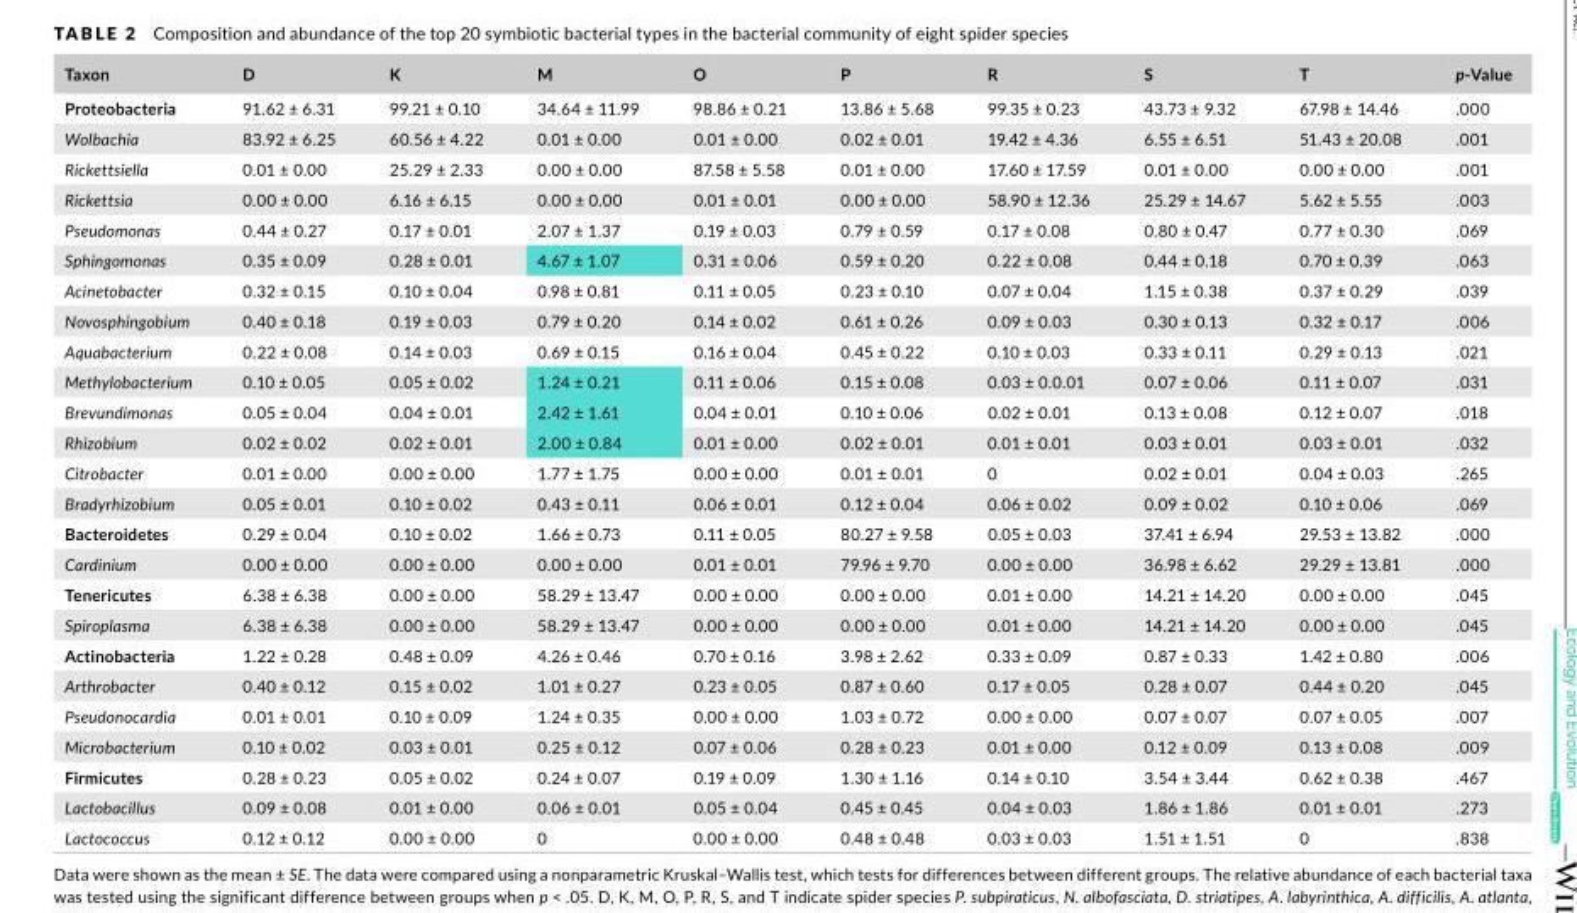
<table><thead><tr><td>Taxon</td><td>D</td><td>K</td><td>M</td><td>O</td><td>P</td><td>R</td><td>S</td><td>T</td><td>p- Value</td></tr></thead><tbody><tr><td>Proteobacteria</td><td>91.62 ± 6.31</td><td>99.21 ± 0.10</td><td>34.64 ± 11.99</td><td>98.86 ± 0.21</td><td>13.86 ± 5.68</td><td>99.35 ± 0.23</td><td>43.73 ± 9.32</td><td>67.98 ± 14.46</td><td>.000</td></tr><tr><td>Wolbachia</td><td>83.92 ± 6.25</td><td>60.56 ± 4.22</td><td>0.01 ± 0.00</td><td>0.01 ± 0.00</td><td>0.02 ± 0.01</td><td>19.42 ± 4.36</td><td>6.55 ± 6.51</td><td>51.43 ± 20.08</td><td>.001</td></tr><tr><td>Rickettsiella</td><td>0.01 ± 0.00</td><td>25.29 ± 2.33</td><td>0.00 ± 0.00</td><td>87.58 ± 5.58</td><td>0.01 ± 0.00</td><td>17.60 ± 17.59</td><td>0.01 ± 0.00</td><td>0.00 ± 0.00</td><td>.001</td></tr><tr><td>Rickettsia</td><td>0.00 ± 0.00</td><td>6.16 ± 6.15</td><td>0.00 ± 0.00</td><td>0.01 ± 0.01</td><td>0.00 ± 0.00</td><td>58.90 ± 12.36</td><td>25.29 ± 14.67</td><td>5.62 ± 5.55</td><td>.003</td></tr><tr><td>Pseudomonas</td><td>0.44 ± 0.27</td><td>0.17 ± 0.01</td><td>2.07 ± 1.37</td><td>0.19 ± 0.03</td><td>0.79 ± 0.59</td><td>0.17 ± 0.08</td><td>0.80 ± 0.47</td><td>0.77 ± 0.30</td><td>.069</td></tr><tr><td>Sphingomonas</td><td>0.35 ± 0.09</td><td>0.28 ± 0.01</td><td>4.67 ± 1.07</td><td>0.31 ± 0.06</td><td>0.59 ± 0.20</td><td>0.22 ± 0.08</td><td>0.44 ± 0.18</td><td>0.70 ± 0.39</td><td>.063</td></tr><tr><td>Acinetobacter</td><td>0.32 ± 0.15</td><td>0.10 ± 0.04</td><td>0.98 ± 0.81</td><td>0.11 ± 0.05</td><td>0.23 ± 0.10</td><td>0.07 ± 0.04</td><td>1.15 ± 0.38</td><td>0.37 ± 0.29</td><td>.039</td></tr><tr><td>Novosphingobium</td><td>0.40 ± 0.18</td><td>0.19 ± 0.03</td><td>0.79 ± 0.20</td><td>0.14 ± 0.02</td><td>0.61 ± 0.26</td><td>0.09 ± 0.03</td><td>0.30 ± 0.13</td><td>0.32 ± 0.17</td><td>.006</td></tr><tr><td>Aquabacterium</td><td>0.22 ± 0.08</td><td>0.14 ± 0.03</td><td>0.69 ± 0.15</td><td>0.16 ± 0.04</td><td>0.45 ± 0.22</td><td>0.10 ± 0.03</td><td>0.33 ± 0.11</td><td>0.29 ± 0.13</td><td>.021</td></tr><tr><td>Methylobacterium</td><td>0.10 ± 0.05</td><td>0.05 ± 0.02</td><td>1.24 ± 0.21</td><td>0.11 ± 0.06</td><td>0.15 ± 0.08</td><td>0.03 ± 0.0.01</td><td>0.07 ± 0.06</td><td>0.11 ± 0.07</td><td>.031</td></tr><tr><td>Brevundimonas</td><td>0.05 ± 0.04</td><td>0.04 ± 0.01</td><td>2.42 ± 1.61</td><td>0.04 ± 0.01</td><td>0.10 ± 0.06</td><td>0.02 ± 0.01</td><td>0.13 ± 0.08</td><td>0.12 ± 0.07</td><td>.018</td></tr><tr><td>Rhizobium</td><td>0.02 ± 0.02</td><td>0.02 ± 0.01</td><td>2.00 ± 0.84</td><td>0.01 ± 0.00</td><td>0.02 ± 0.01</td><td>0.01 ± 0.01</td><td>0.03 ± 0.01</td><td>0.03 ± 0.01</td><td>.032</td></tr><tr><td>Citrobacter</td><td>0.01 ± 0.00</td><td>0.00 ± 0.00</td><td>1.77 ± 1.75</td><td>0.00 ± 0.00</td><td>0.01 ± 0.01</td><td>0</td><td>0.02 ± 0.01</td><td>0.04 ± 0.03</td><td>.265</td></tr><tr><td>Bradyrhizobium</td><td>0.05 ± 0.01</td><td>0.10 ± 0.02</td><td>0.43 ± 0.11</td><td>0.06 ± 0.01</td><td>0.12 ± 0.04</td><td>0.06 ± 0.02</td><td>0.09 ± 0.02</td><td>0.10 ± 0.06</td><td>.069</td></tr><tr><td>Bacteroidetes</td><td>0.29 ± 0.04</td><td>0.10 ± 0.02</td><td>1.66 ± 0.73</td><td>0.11 ± 0.05</td><td>80.27 ± 9.58</td><td>0.05 ± 0.03</td><td>37.41 ± 6.94</td><td>29.53 ± 13.82</td><td>.000</td></tr><tr><td>Cardinium</td><td>0.00 ± 0.00</td><td>0.00 ± 0.00</td><td>0.00 ± 0.00</td><td>0.01 ± 0.01</td><td>79.96 ± 9.70</td><td>0.00 ± 0.00</td><td>36.98 ± 6.62</td><td>29.29 ± 13.81</td><td>.000</td></tr><tr><td>Tenericutes</td><td>6.38 ± 6.38</td><td>0.00 ± 0.00</td><td>58.29 ± 13.47</td><td>0.00 ± 0.00</td><td>0.00 ± 0.00</td><td>0.01 ± 0.00</td><td>14.21 ± 14.20</td><td>0.00 ± 0.00</td><td>.045</td></tr><tr><td>Spiroplasma</td><td>6.38 ± 6.38</td><td>0.00 ± 0.00</td><td>58.29 ± 13.47</td><td>0.00 ± 0.00</td><td>0.00 ± 0.00</td><td>0.01 ± 0.00</td><td>14.21 ± 14.20</td><td>0.00 ± 0.00</td><td>.045</td></tr><tr><td>Actinobacteria</td><td>1.22 ± 0.28</td><td>0.48 ± 0.09</td><td>4.26 ± 0.46</td><td>0.70 ± 0.16</td><td>3.98 ± 2.62</td><td>0.33 ± 0.09</td><td>0.87 ± 0.33</td><td>1.42 ± 0.80</td><td>.006</td></tr><tr><td>Arthrobacter</td><td>0.40 ± 0.12</td><td>0.15 ± 0.02</td><td>1.01 ± 0.27</td><td>0.23 ± 0.05</td><td>0.87 ± 0.60</td><td>0.17 ± 0.05</td><td>0.28 ± 0.07</td><td>0.44 ± 0.20</td><td>.045</td></tr><tr><td>Pseudonocardia</td><td>0.01 ± 0.01</td><td>0.10 ± 0.09</td><td>1.24 ± 0.35</td><td>0.00 ± 0.00</td><td>1.03 ± 0.72</td><td>0.00 ± 0.00</td><td>0.07 ± 0.07</td><td>0.07 ± 0.05</td><td>.007</td></tr><tr><td>Microbacterium</td><td>0.10 ± 0.02</td><td>0.03 ± 0.01</td><td>0.25 ± 0.12</td><td>0.07 ± 0.06</td><td>0.28 ± 0.23</td><td>0.01 ± 0.00</td><td>0.12 ± 0.09</td><td>0.13 ± 0.08</td><td>.009</td></tr><tr><td>Firmicutes</td><td>0.28 ± 0.23</td><td>0.05 ± 0.02</td><td>0.24 ± 0.07</td><td>0.19 ± 0.09</td><td>1.30 ± 1.16</td><td>0.14 ± 0.10</td><td>3.54 ± 3.44</td><td>0.62 ± 0.38</td><td>.467</td></tr><tr><td>Lactobacillus</td><td>0.09 ± 0.08</td><td>0.01 ± 0.00</td><td>0.06 ± 0.01</td><td>0.05 ± 0.04</td><td>0.45 ± 0.45</td><td>0.04 ± 0.03</td><td>1.86 ± 1.86</td><td>0.01 ± 0.01</td><td>.273</td></tr><tr><td>Lactococcus</td><td>0.12 ± 0.12</td><td>0.00 ± 0.00</td><td>0</td><td>0.00 ± 0.00</td><td>0.48 ± 0.48</td><td>0.03 ± 0.03</td><td>1.51 ± 1.51</td><td>0</td><td>.838</td></tr></tbody></table>